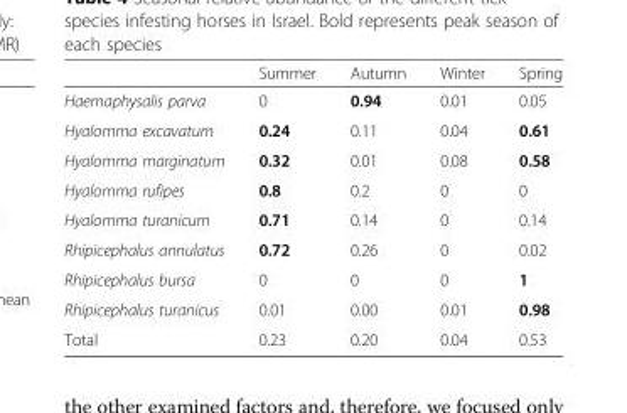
<table><thead><tr><td></td><td>Summer</td><td>Autumn</td><td>Winter</td><td>Spring</td></tr></thead><tbody><tr><td>Haemaphysalis parva</td><td>0</td><td>0.94</td><td>0.01</td><td>0.05</td></tr><tr><td>Hyalomma excavatum</td><td>0.24</td><td>0.11</td><td>0.04</td><td>0.61</td></tr><tr><td>Hyalomma marginatum</td><td>0.32</td><td>0.01</td><td>0.08</td><td>0.58</td></tr><tr><td>Hyalomma rufipes</td><td>0.8</td><td>0.2</td><td>0</td><td>0</td></tr><tr><td>Hyalomma turanicum</td><td>0.71</td><td>0.14</td><td>0</td><td>0.14</td></tr><tr><td>Rhipicephalus annulatus</td><td>0.72</td><td>0.26</td><td>0</td><td>0.02</td></tr><tr><td>Rhipicephalus bursa</td><td>0</td><td>0</td><td>0</td><td>1</td></tr><tr><td>Rhipicephalus turanicus</td><td>0.01</td><td>0.00</td><td>0.01</td><td>0.98</td></tr><tr><td>Total</td><td>0.23</td><td>0.20</td><td>0.04</td><td>0.53</td></tr></tbody></table>